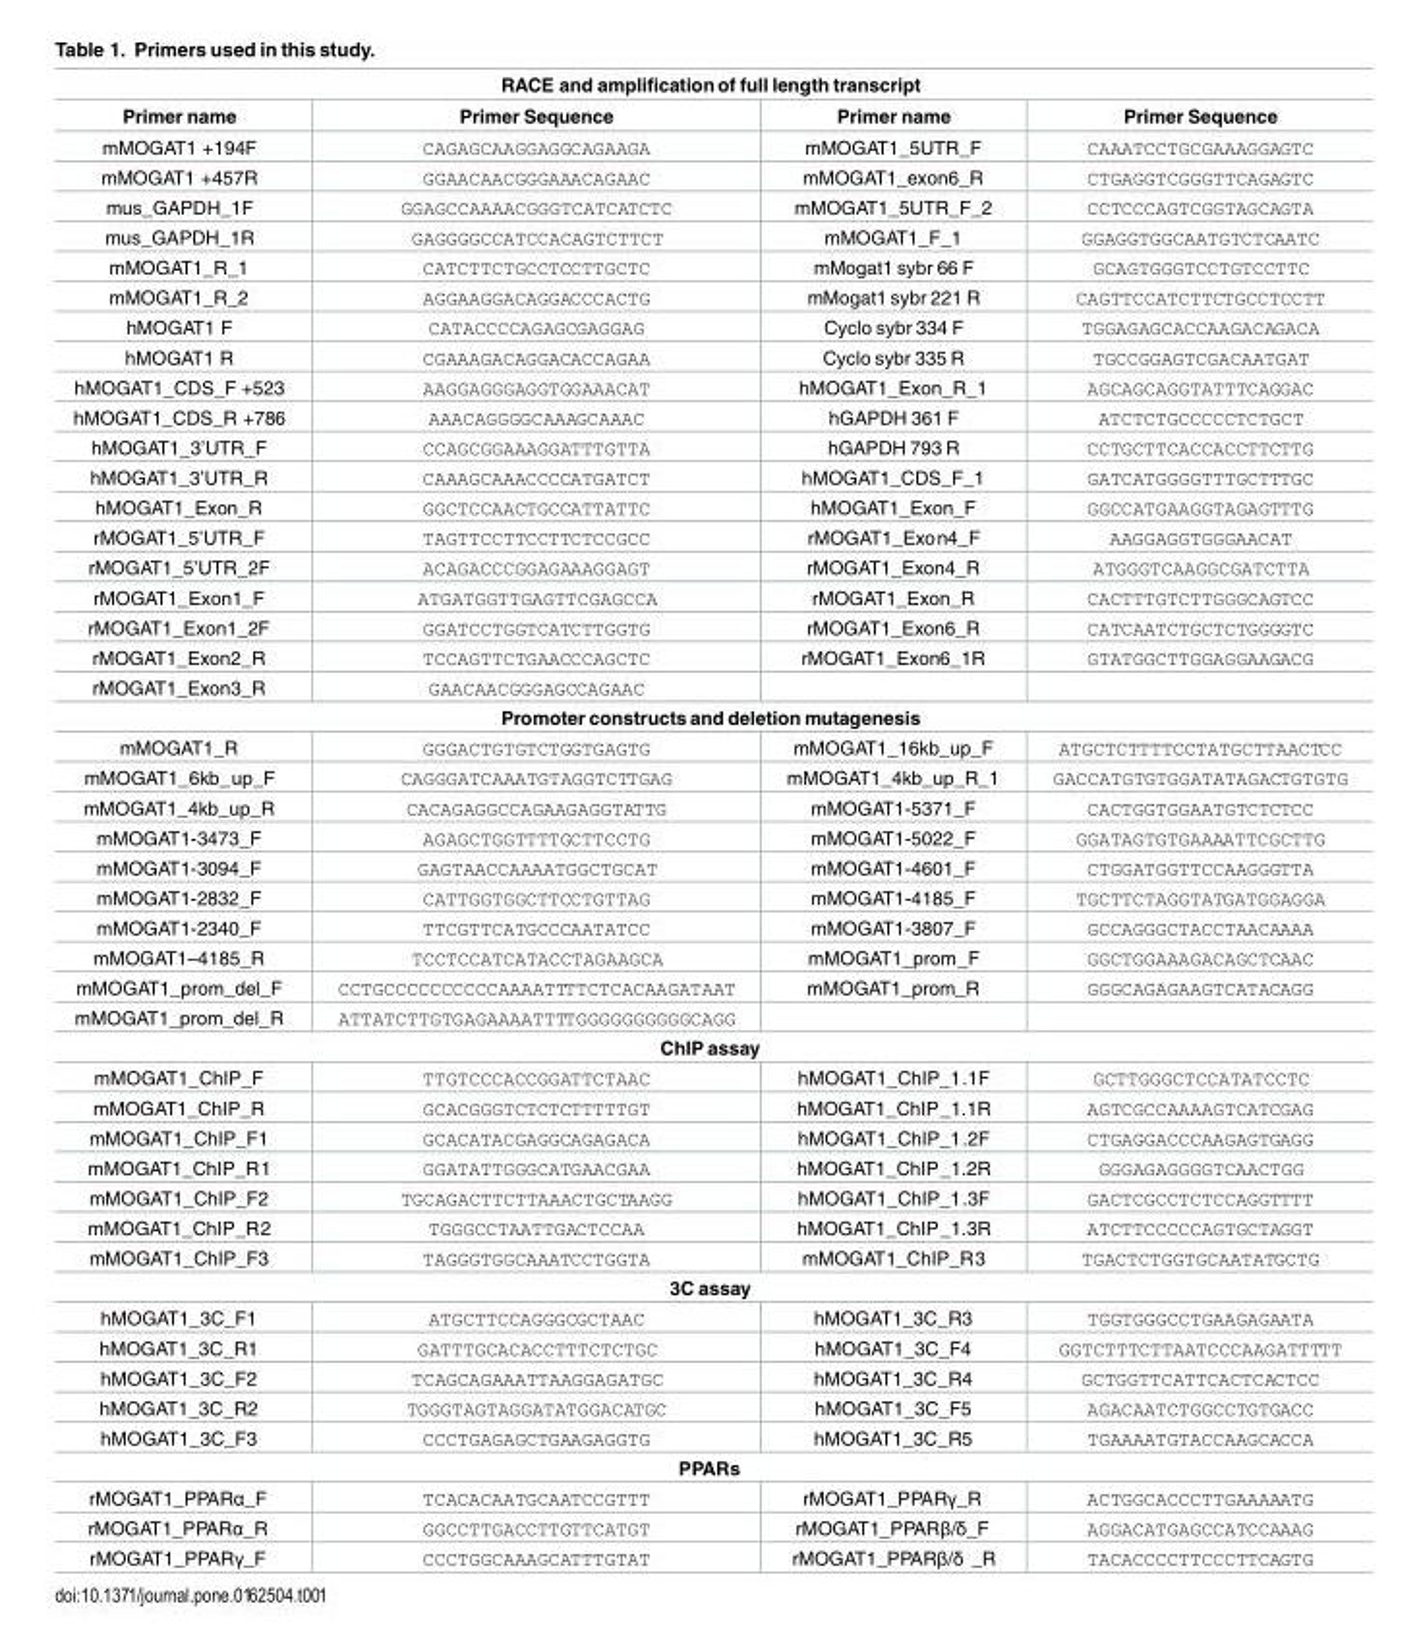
<table><thead><tr><td colspan="4">RACE and amplification of full length transcript</td></tr><tr><td>Primer name</td><td>Primer Sequence</td><td>Primer name</td><td>Primer Sequence</td></tr></thead><tbody><tr><td>mMOGAT1 +194F</td><td>CAGAGCAAGGAGGCAGAAGA</td><td>mMOGAT1_5UTR_F</td><td>CAAATCCTGCGAAAGGAGTC</td></tr><tr><td>mMOGAT1 +457R</td><td>GGAACAACGGGAAACAGAAC</td><td>mMOGAT1_exon6_R</td><td>CTGAGGTCGGGTTCAGAGTC</td></tr><tr><td>mus_GAPDH_1F</td><td>GGAGCCAAAACGGGTCATCATCTC</td><td>mMOGAT1_5UTR_F_2</td><td>CCTCCCAGTCGGTAGCAGTA</td></tr><tr><td>mus_GAPDH_1R</td><td>GAGGGGCCATCCACAGTCTTCT</td><td>mMOGAT1_F_1</td><td>GGAGGTGGCAATGTCTCAATC</td></tr><tr><td>mMOGAT1_R_1</td><td>CATCTTCTGCCTCCTTGCTC</td><td>mMogat1 sybr 66 F</td><td>GCAGTGGGTCCTGTCCTTC</td></tr><tr><td>mMOGAT1_R_2</td><td>AGGAAGGACAGGACCCACTG</td><td>mMogat1 sybr 221 R</td><td>CAGTTCCATCTTCTGCCTCCTT</td></tr><tr><td>hMOGAT1 F</td><td>CATACCCCAGAGCGAGGAG</td><td>Cyclo sybr 334 F</td><td>TGGAGAGCACCAAGACAGACA</td></tr><tr><td>hMOGAT1 R</td><td>CGAAAGACAGGACACCAGAA</td><td>Cyclo sybr 335 R</td><td>TGCCGGAGTCGACAATGAT</td></tr><tr><td>hMOGAT1_CDS_F +523</td><td>AAGGAGGGAGGTGGAAACAT</td><td>hMOGAT1_Exon_R_1</td><td>AGCAGCAGGTATTTCAGGAC</td></tr><tr><td>hMOGAT1_CDS_R +786</td><td>AAACAGGGGCAAAGCAAAC</td><td>hGAPDH 361 F</td><td>ATCTCTGCCCCCTCTGCT</td></tr><tr><td>hMOGAT1_3’UTR_F</td><td>CCAGCGGAAAGGATTTGTTA</td><td>hGAPDH 793 R</td><td>CCTGCTTCACCACCTTCTTG</td></tr><tr><td>hMOGAT1_3’UTR_R</td><td>CAAAGCAAACCCCATGATCT</td><td>hMOGAT1_CDS_F_1</td><td>GATCATGGGGTTTGCTTTGC</td></tr><tr><td>hMOGAT1_Exon_R</td><td>GGCTCCAACTGCCATTATTC</td><td>hMOGAT1_Exon_F</td><td>GGCCATGAAGGTAGAGTTTG</td></tr><tr><td>rMOGAT1_5’UTR_F</td><td>TAGTTCCTTCCTTCTCCGCC</td><td>rMOGAT1_Exon4_F</td><td>AAGGAGGTGGGAACAT</td></tr><tr><td>rMOGAT1_5’UTR_2F</td><td>ACAGACCCGGAGAAAGGAGT</td><td>rMOGAT1_Exon4_R</td><td>ATGGGTCAAGGCGATCTTA</td></tr><tr><td>rMOGAT1_Exon1_F</td><td>ATGATGGTTGAGTTCGAGCCA</td><td>rMOGAT1_Exon_R</td><td>CACTTTGTCTTGGGCAGTCC</td></tr><tr><td>rMOGAT1_Exon1_2F</td><td>GGATCCTGGTCATCTTGGTG</td><td>rMOGAT1_Exon6_R</td><td>CATCAATCTGCTCTGGGGTC</td></tr><tr><td>rMOGAT1_Exon2_R</td><td>TCCAGTTCTGAACCCAGCTC</td><td>rMOGAT1_Exon6_1R</td><td>GTATGGCTTGGAGGAAGACG</td></tr><tr><td>rMOGAT1_Exon3_R</td><td>GAACAACGGGAGCCAGAAC</td><td></td><td></td></tr><tr><td colspan="4">Promoter constructs and deletion mutagenesis</td></tr><tr><td>mMOGAT1_R</td><td>GGGACTGTGTCTGGTGAGTG</td><td>mMOGAT1_16kb_up_F</td><td>ATGCTCTTTTCCTATGCTTAACTCC</td></tr><tr><td>mMOGAT1_6kb_up_F</td><td>CAGGGATCAAATGTAGGTCTTGAG</td><td>mMOGAT1_4kb_up_R_1</td><td>GACCATGTGTGGATATAGACTGTGTG</td></tr><tr><td>mMOGAT1_4kb_up_R</td><td>CACAGAGGCCAGAAGAGGTATTG</td><td>mMOGAT1-5371_F</td><td>CACTGGTGGAATGTCTCTCC</td></tr><tr><td>mMOGAT1-3473_F</td><td>AGAGCTGGTTTTGCTTCCTG</td><td>mMOGAT1-5022_F</td><td>GGATAGTGTGAAAATTCGCTTG</td></tr><tr><td>mMOGAT1-3094_F</td><td>GAGTAACCAAAATGGCTGCAT</td><td>mMOGAT1-4601_F</td><td>CTGGATGGTTCCAAGGGTTA</td></tr><tr><td>mMOGAT1-2832_F</td><td>CATTGGTGGCTTCCTGTTAG</td><td>mMOGAT1-4185_F</td><td>TGCTTCTAGGTATGATGGAGGA</td></tr><tr><td>mMOGAT1-2340_F</td><td>TTCGTTCATGCCCAATATCC</td><td>mMOGAT1-3807_F</td><td>GCCAGGGCTACCTAACAAAA</td></tr><tr><td>mMOGAT1–4185_R</td><td>TCCTCCATCATACCTAGAAGCA</td><td>mMOGAT1_prom_F</td><td>GGCTGGAAAGACAGCTCAAC</td></tr><tr><td>mMOGAT1_prom_del_F</td><td>CCTGCCCCCCCCCCAAAATTTTCTCACAAGATAAT</td><td>mMOGAT1_prom_R</td><td>GGGCAGAGAAGTCATACAGG</td></tr><tr><td>mMOGAT1_prom_del_R</td><td>ATTATCTTGTGAGAAAATTTTGGGGGGGGGGCAGG</td><td></td><td></td></tr><tr><td colspan="4">ChIP assay</td></tr><tr><td>mMOGAT1_ChIP_F</td><td>TTGTCCCACCGGATTCTAAC</td><td>hMOGAT1_ChIP_1.1F</td><td>GCTTGGGCTCCATATCCTC</td></tr><tr><td>mMOGAT1_ChIP_R</td><td>GCACGGGTCTCTCTTTTTGT</td><td>hMOGAT1_ChIP_1.1R</td><td>AGTCGCCAAAAGTCATCGAG</td></tr><tr><td>mMOGAT1_ChIP_F1</td><td>GCACATACGAGGCAGAGACA</td><td>hMOGAT1_ChIP_1.2F</td><td>CTGAGGACCCAAGAGTGAGG</td></tr><tr><td>mMOGAT1_ChIP_R1</td><td>GGATATTGGGCATGAACGAA</td><td>hMOGAT1_ChIP_1.2R</td><td>GGGAGAGGGGTCAACTGG</td></tr><tr><td>mMOGAT1_ChIP_F2</td><td>TGCAGACTTCTTAAACTGCTAAGG</td><td>hMOGAT1_ChIP_1.3F</td><td>GACTCGCCTCTCCAGGTTTT</td></tr><tr><td>mMOGAT1_ChIP_R2</td><td>TGGGCCTAATTGACTCCAA</td><td>hMOGAT1_ChIP_1.3R</td><td>ATCTTCCCCCAGTGCTAGGT</td></tr><tr><td>mMOGAT1_ChIP_F3</td><td>TAGGGTGGCAAATCCTGGTA</td><td>mMOGAT1_ChIP_R3</td><td>TGACTCTGGTGCAATATGCTG</td></tr><tr><td colspan="4">3C assay</td></tr><tr><td>hMOGAT1_3C_F1</td><td>ATGCTTCCAGGGCGCTAAC</td><td>hMOGAT1_3C_R3</td><td>TGGTGGGCCTGAAGAGAATA</td></tr><tr><td>hMOGAT1_3C_R1</td><td>GATTTGCACACCTTTCTCTGC</td><td>hMOGAT1_3C_F4</td><td>GGTCTTTCTTAATCCCAAGATTTTT</td></tr><tr><td>hMOGAT1_3C_F2</td><td>TCAGCAGAAATTAAGGAGATGC</td><td>hMOGAT1_3C_R4</td><td>GCTGGTTCATTCACTCACTCC</td></tr><tr><td>hMOGAT1_3C_R2</td><td>TGGGTAGTAGGATATGGACATGC</td><td>hMOGAT1_3C_F5</td><td>AGACAATCTGGCCTGTGACC</td></tr><tr><td>hMOGAT1_3C_F3</td><td>CCCTGAGAGCTGAAGAGGTG</td><td>hMOGAT1_3C_R5</td><td>TGAAAATGTACCAAGCACCA</td></tr><tr><td colspan="4">PPARs</td></tr><tr><td>rMOGAT1_PPARα_F</td><td>TCACACAATGCAATCCGTTT</td><td>rMOGAT1_PPARγ_R</td><td>ACTGGCACCCTTGAAAAATG</td></tr><tr><td>rMOGAT1_PPARα_R</td><td>GGCCTTGACCTTGTTCATGT</td><td>rMOGAT1_PPARβ/δ_F</td><td>AGGACATGAGCCATCCAAAG</td></tr><tr><td>rMOGAT1_PPARγ_F</td><td>CCCTGGCAAAGCATTTGTAT</td><td>rMOGAT1_PPARβ/δ _R</td><td>TACACCCCTTCCCTTCAGTG</td></tr></tbody></table>